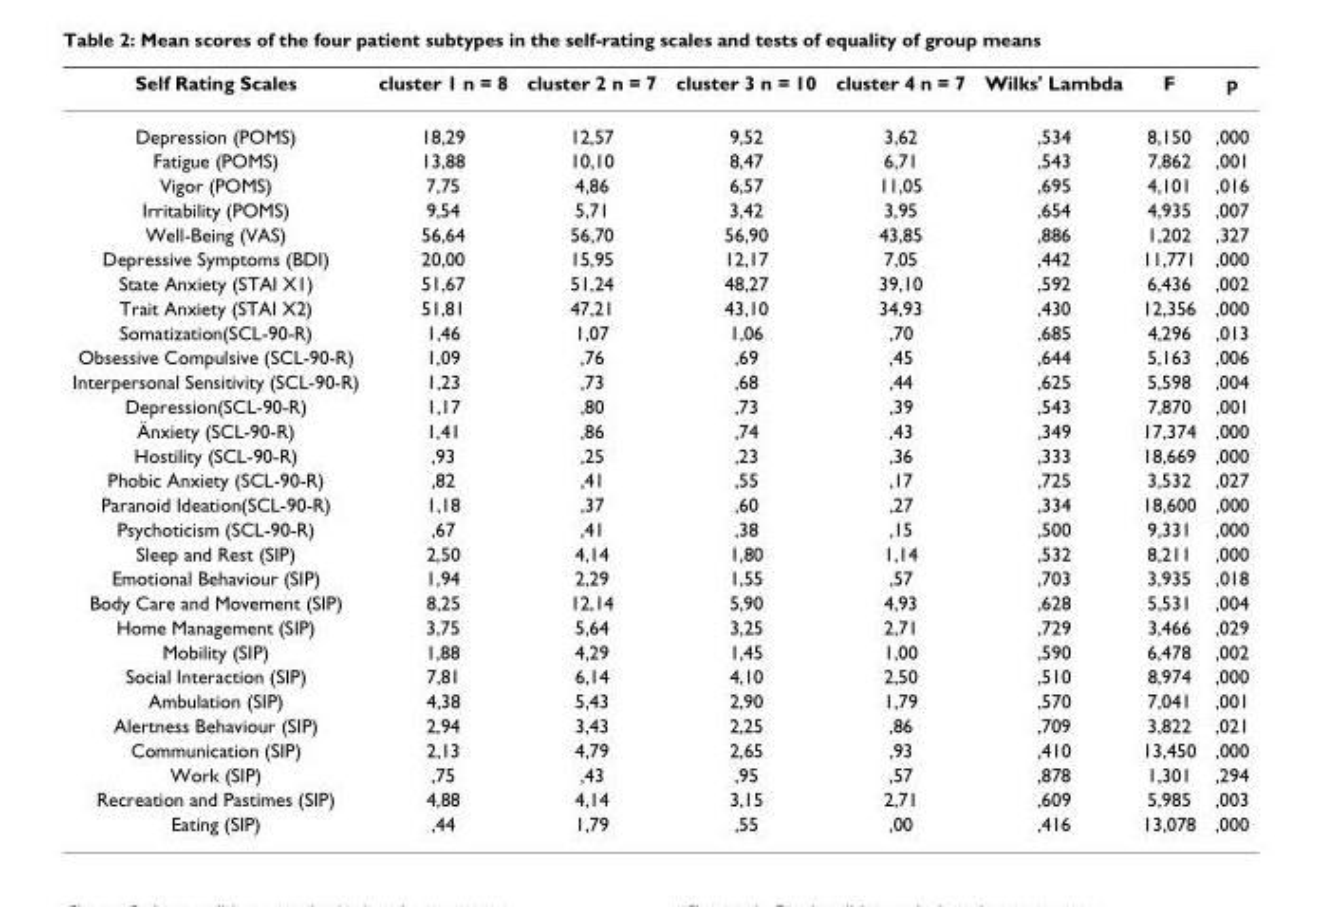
<table><thead><tr><td>Self Rating Scales</td><td>cluster 1 n = 8</td><td>cluster 2 n = 7</td><td>cluster 3 n = 10</td><td>cluster 4 n = 7</td><td>Wilks&#x27; Lambda</td><td>F</td><td>p</td></tr></thead><tbody><tr><td>Depression (POMS)</td><td>18,29</td><td>12,57</td><td>9,52</td><td>3,62</td><td>,534</td><td>8,150</td><td>,000</td></tr><tr><td>Fatigue (POMS)</td><td>13,88</td><td>10,10</td><td>8,47</td><td>6,71</td><td>,543</td><td>7,862</td><td>,001</td></tr><tr><td>Vigor (POMS)</td><td>7,75</td><td>4,86</td><td>6,57</td><td>11,05</td><td>,695</td><td>4,101</td><td>,016</td></tr><tr><td>Irritability (POMS)</td><td>9,54</td><td>5,71</td><td>3,42</td><td>3,95</td><td>,654</td><td>4,935</td><td>,007</td></tr><tr><td>Well-Being (VAS)</td><td>56,64</td><td>56,70</td><td>56,90</td><td>43,85</td><td>,886</td><td>1,202</td><td>,327</td></tr><tr><td>Depressive Symptoms (BDI)</td><td>20,00</td><td>15,95</td><td>12,17</td><td>7,05</td><td>,442</td><td>11,771</td><td>,000</td></tr><tr><td>State Anxiety (STAI X1)</td><td>51,67</td><td>51,24</td><td>48,27</td><td>39,10</td><td>,592</td><td>6,436</td><td>,002</td></tr><tr><td>Trait Anxiety (STAI X2)</td><td>51,81</td><td>47,21</td><td>43,10</td><td>34,93</td><td>,430</td><td>12,356</td><td>,000</td></tr><tr><td>Somatization(SCL-90-R)</td><td>1,46</td><td>1,07</td><td>1,06</td><td>,70</td><td>,685</td><td>4,296</td><td>,013</td></tr><tr><td>Obsessive Compulsive (SCL-90-R)</td><td>1,09</td><td>,76</td><td>,69</td><td>,45</td><td>,644</td><td>5,163</td><td>,006</td></tr><tr><td>Interpersonal Sensitivity (SCL-90-R)</td><td>1,23</td><td>,73</td><td>,68</td><td>,44</td><td>,625</td><td>5,598</td><td>,004</td></tr><tr><td>Depression(SCL-90-R)</td><td>1,17</td><td>,80</td><td>,73</td><td>,39</td><td>,543</td><td>7,870</td><td>,001</td></tr><tr><td>Änxiety (SCL-90-R)</td><td>1,41</td><td>,86</td><td>,74</td><td>,43</td><td>,349</td><td>17,374</td><td>,000</td></tr><tr><td>Hostility (SCL-90-R)</td><td>,93</td><td>,25</td><td>,23</td><td>,36</td><td>,333</td><td>18,669</td><td>,000</td></tr><tr><td>Phobic Anxiety (SCL-90-R)</td><td>,82</td><td>,41</td><td>,55</td><td>,17</td><td>,725</td><td>3,532</td><td>,027</td></tr><tr><td>Paranoid Ideation(SCL-90-R)</td><td>1,18</td><td>,37</td><td>,60</td><td>,27</td><td>,334</td><td>18,600</td><td>,000</td></tr><tr><td>Psychoticism (SCL-90-R)</td><td>,67</td><td>,41</td><td>,38</td><td>,15</td><td>,500</td><td>9,331</td><td>,000</td></tr><tr><td>Sleep and Rest (SIP)</td><td>2,50</td><td>4,14</td><td>1,80</td><td>1,14</td><td>,532</td><td>8,211</td><td>,000</td></tr><tr><td>Emotional Behaviour (SIP)</td><td>1,94</td><td>2,29</td><td>1,55</td><td>,57</td><td>,703</td><td>3,935</td><td>,018</td></tr><tr><td>Body Care and Movement (SIP)</td><td>8,25</td><td>12,14</td><td>5,90</td><td>4,93</td><td>,628</td><td>5,531</td><td>,004</td></tr><tr><td>Home Management (SIP)</td><td>3,75</td><td>5,64</td><td>3,25</td><td>2,71</td><td>,729</td><td>3,466</td><td>,029</td></tr><tr><td>Mobility (SIP)</td><td>1,88</td><td>4,29</td><td>1,45</td><td>1,00</td><td>,590</td><td>6,478</td><td>,002</td></tr><tr><td>Social Interaction (SIP)</td><td>7,81</td><td>6,14</td><td>4,10</td><td>2,50</td><td>,510</td><td>8,974</td><td>,000</td></tr><tr><td>Ambulation (SIP)</td><td>4,38</td><td>5,43</td><td>2,90</td><td>1,79</td><td>,570</td><td>7,041</td><td>,001</td></tr><tr><td>Alertness Behaviour (SIP)</td><td>2,94</td><td>3,43</td><td>2,25</td><td>,86</td><td>,709</td><td>3,822</td><td>,021</td></tr><tr><td>Communication (SIP)</td><td>2,13</td><td>4,79</td><td>2,65</td><td>,93</td><td>,410</td><td>13,450</td><td>,000</td></tr><tr><td>Work (SIP)</td><td>,75</td><td>,43</td><td>,95</td><td>,57</td><td>,878</td><td>1,301</td><td>,294</td></tr><tr><td>Recreation and Pastimes (SIP)</td><td>4,88</td><td>4,14</td><td>3,15</td><td>2,71</td><td>,609</td><td>5,985</td><td>,003</td></tr><tr><td>Eating (SIP)</td><td>,44</td><td>1,79</td><td>,55</td><td>,00</td><td>,416</td><td>13,078</td><td>,000</td></tr></tbody></table>